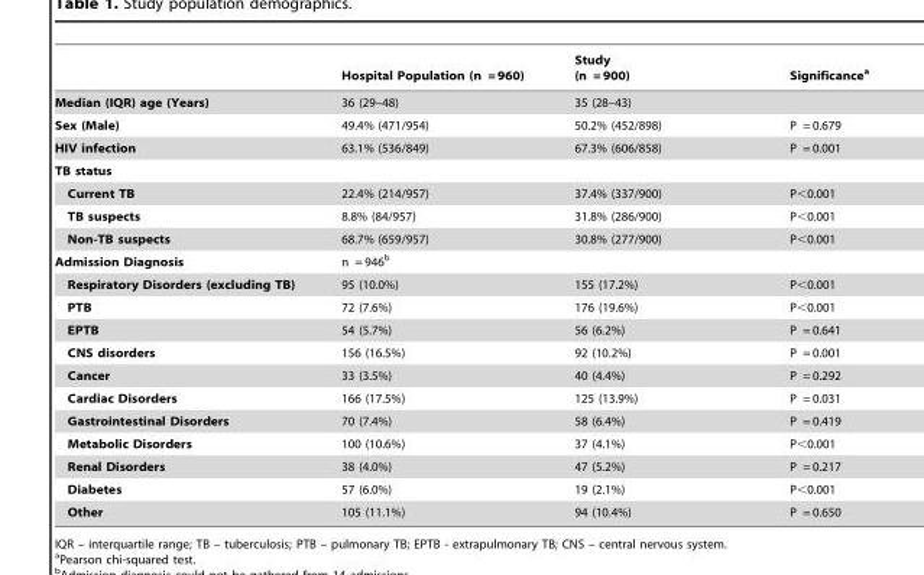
<table><thead><tr><td></td><td>Hospital Population (n = 960)</td><td>Study (n = 900)</td><td>Significance<sup>a</sup></td></tr></thead><tbody><tr><td>Median (IQR) age (Years)</td><td>36 (29–48)</td><td>35 (28–43)</td><td></td></tr><tr><td>Sex (Male)</td><td>49.4% (471/954)</td><td>50.2% (452/898)</td><td>P = 0.679</td></tr><tr><td>HIV infection</td><td>63.1% (536/849)</td><td>67.3% (606/858)</td><td>P = 0.001</td></tr><tr><td colspan="4">TB status</td></tr><tr><td>Current TB</td><td>22.4% (214/957)</td><td>37.4% (337/900)</td><td>P&lt;0.001</td></tr><tr><td>TB suspects</td><td>8.8% (84/957)</td><td>31.8% (286/900)</td><td>P&lt;0.001</td></tr><tr><td>Non-TB suspects</td><td>68.7% (659/957)</td><td>30.8% (277/900)</td><td>P&lt;0.001</td></tr><tr><td>Admission Diagnosis</td><td>n = 946<sup>b</sup></td><td></td><td></td></tr><tr><td>Respiratory Disorders (excluding TB)</td><td>95 (10.0%)</td><td>155 (17.2%)</td><td>P&lt;0.001</td></tr><tr><td>PTB</td><td>72 (7.6%)</td><td>176 (19.6%)</td><td>P&lt;0.001</td></tr><tr><td>EPTB</td><td>54 (5.7%)</td><td>56 (6.2%)</td><td>P = 0.641</td></tr><tr><td>CNS disorders</td><td>156 (16.5%)</td><td>92 (10.2%)</td><td>P = 0.001</td></tr><tr><td>Cancer</td><td>33 (3.5%)</td><td>40 (4.4%)</td><td>P = 0.292</td></tr><tr><td>Cardiac Disorders</td><td>166 (17.5%)</td><td>125 (13.9%)</td><td>P = 0.031</td></tr><tr><td>Gastrointestinal Disorders</td><td>70 (7.4%)</td><td>58 (6.4%)</td><td>P = 0.419</td></tr><tr><td>Metabolic Disorders</td><td>100 (10.6%)</td><td>37 (4.1%)</td><td>P&lt;0.001</td></tr><tr><td>Renal Disorders</td><td>38 (4.0%)</td><td>47 (5.2%)</td><td>P = 0.217</td></tr><tr><td>Diabetes</td><td>57 (6.0%)</td><td>19 (2.1%)</td><td>P&lt;0.001</td></tr><tr><td>Other</td><td>105 (11.1%)</td><td>94 (10.4%)</td><td>P = 0.650</td></tr></tbody></table>